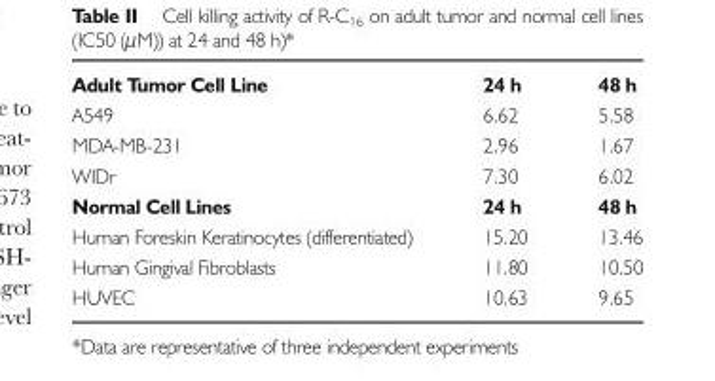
<table><tbody><tr><td>Adult Tumor Cell Line</td><td>24 h</td><td>48 h</td></tr><tr><td>A549</td><td>6.62</td><td>5.58</td></tr><tr><td>MDA-MB-231</td><td>2.96</td><td>1.67</td></tr><tr><td>WIDr</td><td>7.30</td><td>6.02</td></tr><tr><td>Normal Cell Lines</td><td>24 h</td><td>48 h</td></tr><tr><td>Human Foreskin Keratinocytes (differentiated)</td><td>15.20</td><td>13.46</td></tr><tr><td>Human Gingival Fibroblasts</td><td>11.80</td><td>10.50</td></tr><tr><td>HUVEC</td><td>10.63</td><td>9.65</td></tr></tbody></table>